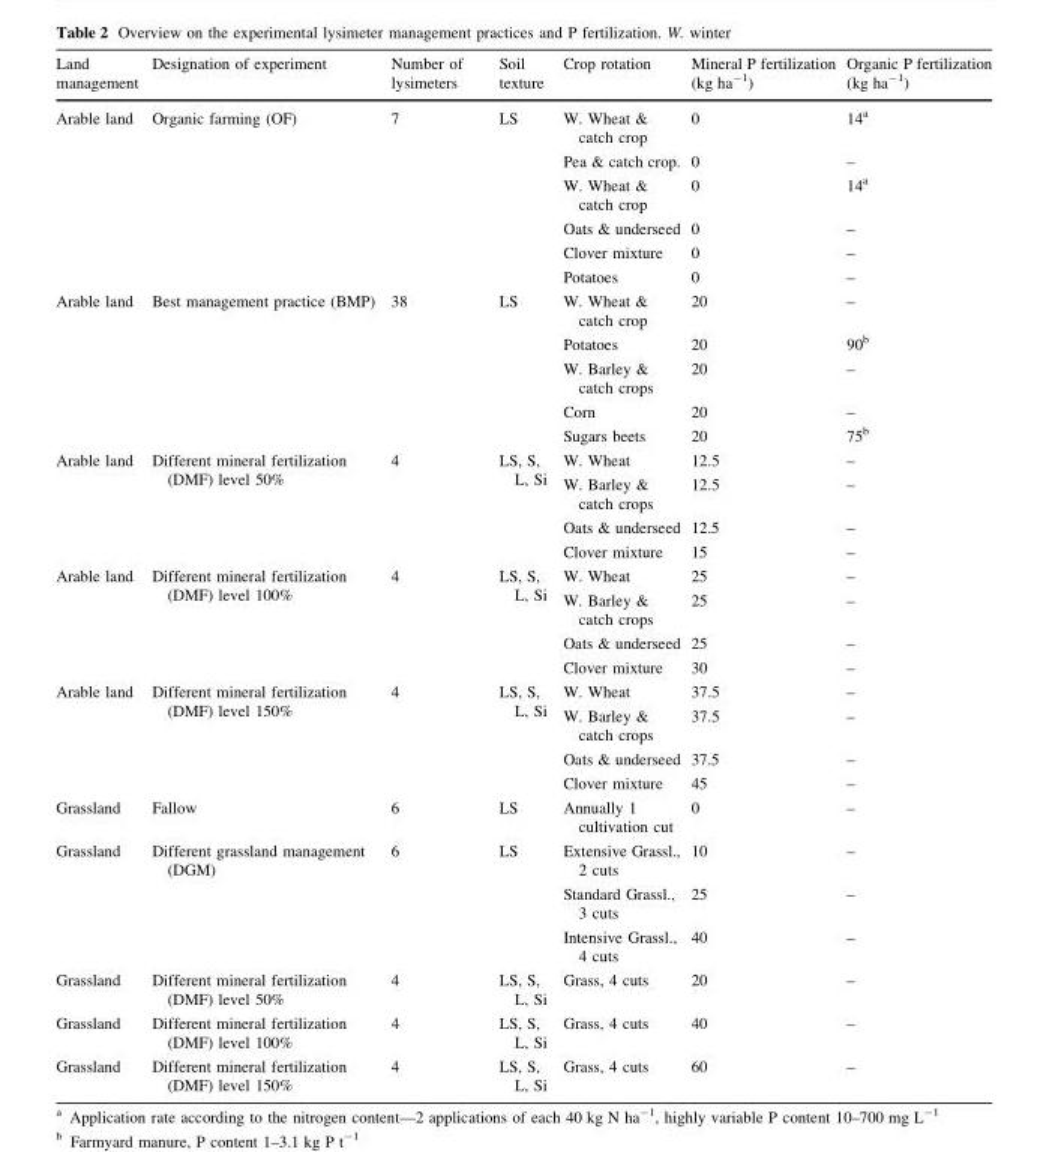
<table><thead><tr><td>Land management</td><td>Designation of experiment</td><td>Number of lysimeters</td><td>Soil texture</td><td>Crop rotation</td><td>Mineral P fertilization (kg ha<sup>-1</sup>)</td><td>Organic P fertilization (kg ha<sup>-1</sup>)</td></tr></thead><tbody><tr><td rowspan="6">Arable land</td><td rowspan="6">Organic farming (OF)</td><td rowspan="6">7</td><td rowspan="6">LS</td><td>W. Wheat &amp; catch crop</td><td>0</td><td>14<sup>a</sup></td></tr><tr><td>Pea &amp; catch crop.</td><td>0</td><td>–</td></tr><tr><td>W. Wheat &amp; catch crop</td><td>0</td><td>14<sup>a</sup></td></tr><tr><td>Oats &amp; underseed</td><td>0</td><td>–</td></tr><tr><td>Clover mixture</td><td>0</td><td>–</td></tr><tr><td>Potatoes</td><td>0</td><td>–</td></tr><tr><td rowspan="5">Arable land</td><td rowspan="5">Best management practice (BMP)</td><td rowspan="5">38</td><td rowspan="5">LS</td><td>W. Wheat &amp; catch crop</td><td>20</td><td>–</td></tr><tr><td>Potatoes</td><td>20</td><td>90<sup>b</sup></td></tr><tr><td>W. Barley &amp; catch crops</td><td>20</td><td>–</td></tr><tr><td>Corn</td><td>20</td><td>–</td></tr><tr><td>Sugars beets</td><td>20</td><td>75<sup>b</sup></td></tr><tr><td rowspan="4">Arable land</td><td rowspan="4">Different mineral fertilization (DMF) level 50%</td><td rowspan="4">4</td><td rowspan="4">LS, S, L, Si</td><td>W. Wheat</td><td>12.5</td><td>–</td></tr><tr><td>W. Barley &amp; catch crops</td><td>12.5</td><td>–</td></tr><tr><td>Oats &amp; underseed</td><td>12.5</td><td>–</td></tr><tr><td>Clover mixture</td><td>15</td><td>–</td></tr><tr><td rowspan="4">Arable land</td><td rowspan="4">Different mineral fertilization (DMF) level 100%</td><td rowspan="4">4</td><td rowspan="4">LS, S, L, Si</td><td>W. Wheat</td><td>25</td><td>–</td></tr><tr><td>W. Barley &amp; catch crops</td><td>25</td><td>–</td></tr><tr><td>Oats &amp; underseed</td><td>25</td><td>–</td></tr><tr><td>Clover mixture</td><td>30</td><td>–</td></tr><tr><td rowspan="4">Arable land</td><td rowspan="4">Different mineral fertilization (DMF) level 150%</td><td rowspan="4">4</td><td rowspan="4">LS, S, L, Si</td><td>W. Wheat</td><td>37.5</td><td>–</td></tr><tr><td>W. Barley &amp; catch crops</td><td>37.5</td><td>–</td></tr><tr><td>Oats &amp; underseed</td><td>37.5</td><td>–</td></tr><tr><td>Clover mixture</td><td>45</td><td>–</td></tr><tr><td>Grassland</td><td>Fallow</td><td>6</td><td>LS</td><td>Annually 1 cultivation cut</td><td>0</td><td>–</td></tr><tr><td rowspan="3">Grassland</td><td rowspan="3">Different grassland management (DGM)</td><td rowspan="3">6</td><td rowspan="3">LS</td><td>Extensive Grassl., 2 cuts</td><td>10</td><td>–</td></tr><tr><td>Standard Grassl., 3 cuts</td><td>25</td><td>–</td></tr><tr><td>Intensive Grassl., 4 cuts</td><td>40</td><td>–</td></tr><tr><td>Grassland</td><td>Different mineral fertilization (DMF) level 50%</td><td>4</td><td>LS, S, L, Si</td><td>Grass, 4 cuts</td><td>20</td><td>–</td></tr><tr><td>Grassland</td><td>Different mineral fertilization (DMF) level 100%</td><td>4</td><td>LS, S, L, Si</td><td>Grass, 4 cuts</td><td>40</td><td>–</td></tr><tr><td>Grassland</td><td>Different mineral fertilization (DMF) level 150%</td><td>4</td><td>LS, S, L, Si</td><td>Grass, 4 cuts</td><td>60</td><td>–</td></tr></tbody></table>